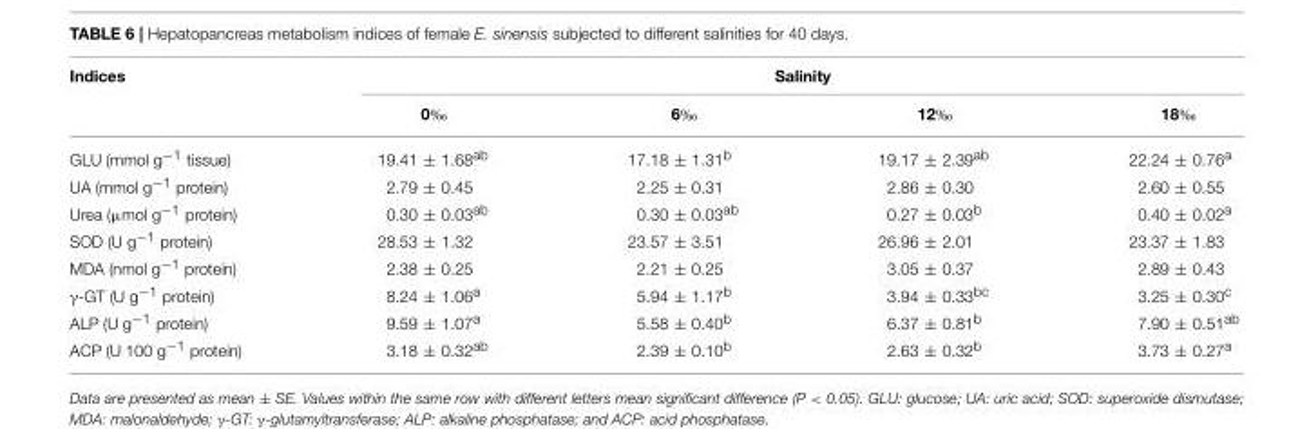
<table><thead><tr><td rowspan="2">Indices</td><td colspan="4">Salinity</td></tr><tr><td>0‰</td><td>6‰</td><td>12‰</td><td>18‰</td></tr></thead><tbody><tr><td>GLU (mmol g<sup>−1</sup> tissue)</td><td>19.41 ± 1.68<sup>ab</sup></td><td>17.18 ± 1.31<sup>b</sup></td><td>19.17 ± 2.39<sup>ab</sup></td><td>22.24 ± 0.76<sup>a</sup></td></tr><tr><td>UA (mmol g<sup>−1</sup> protein)</td><td>2.79 ± 0.45</td><td>2.25 ± 0.31</td><td>2.86 ± 0.30</td><td>2.60 ± 0.55</td></tr><tr><td>Urea (µmol g<sup>−1</sup> protein)</td><td>0.30 ± 0.03<sup>ab</sup></td><td>0.30 ± 0.03<sup>ab</sup></td><td>0.27 ± 0.03<sup>b</sup></td><td>0.40 ± 0.02<sup>a</sup></td></tr><tr><td>SOD (U g<sup>−1</sup> protein)</td><td>28.53 ± 1.32</td><td>23.57 ± 3.51</td><td>26.96 ± 2.01</td><td>23.37 ± 1.83</td></tr><tr><td>MDA (nmol g<sup>−1</sup> protein)</td><td>2.38 ± 0.25</td><td>2.21 ± 0.25</td><td>3.05 ± 0.37</td><td>2.89 ± 0.43</td></tr><tr><td>γ-GT (U g<sup>−1</sup> protein)</td><td>8.24 ± 1.06<sup>a</sup></td><td>5.94 ± 1.17<sup>b</sup></td><td>3.94 ± 0.33<sup>bc</sup></td><td>3.25 ± 0.30<sup>c</sup></td></tr><tr><td>ALP (U g<sup>−1</sup> protein)</td><td>9.59 ± 1.07<sup>a</sup></td><td>5.58 ± 0.40<sup>b</sup></td><td>6.37 ± 0.81<sup>b</sup></td><td>7.90 ± 0.51<sup>ab</sup></td></tr><tr><td>ACP (U 100 g<sup>−1</sup> protein)</td><td>3.18 ± 0.32<sup>ab</sup></td><td>2.39 ± 0.10<sup>b</sup></td><td>2.63 ± 0.32<sup>b</sup></td><td>3.73 ± 0.27<sup>a</sup></td></tr></tbody></table>